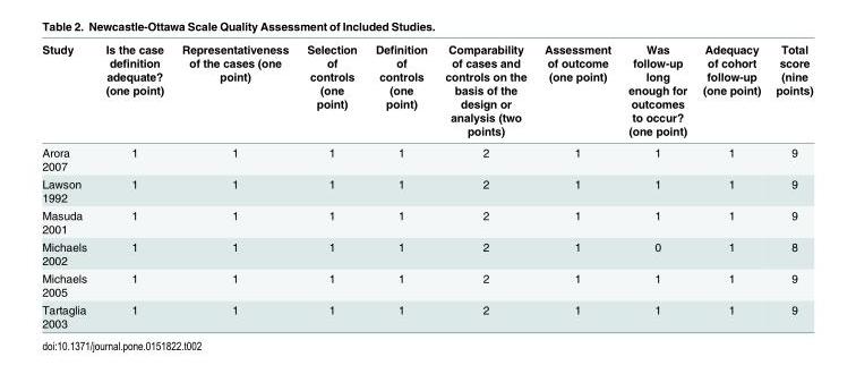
<table><thead><tr><td>Study</td><td>Is the case definition adequate? (one point)</td><td>Representativeness of the cases (one point)</td><td>Selection of controls (one point)</td><td>Definition of controls (one point)</td><td>Comparability of cases and controls on the basis of the design or analysis (two points)</td><td>Assessment of outcome (one point)</td><td>Was follow-up long enough for outcomes to occur? (one point)</td><td>Adequacy of cohort follow-up (one point)</td><td>Total score (nine points)</td></tr></thead><tbody><tr><td>Arora 2007</td><td>1</td><td>1</td><td>1</td><td>1</td><td>2</td><td>1</td><td>1</td><td>1</td><td>9</td></tr><tr><td>Lawson 1992</td><td>1</td><td>1</td><td>1</td><td>1</td><td>2</td><td>1</td><td>1</td><td>1</td><td>9</td></tr><tr><td>Masuda 2001</td><td>1</td><td>1</td><td>1</td><td>1</td><td>2</td><td>1</td><td>1</td><td>1</td><td>9</td></tr><tr><td>Michaels 2002</td><td>1</td><td>1</td><td>1</td><td>1</td><td>2</td><td>1</td><td>0</td><td>1</td><td>8</td></tr><tr><td>Michaels 2005</td><td>1</td><td>1</td><td>1</td><td>1</td><td>2</td><td>1</td><td>1</td><td>1</td><td>9</td></tr><tr><td>Tartaglia 2003</td><td>1</td><td>1</td><td>1</td><td>1</td><td>2</td><td>1</td><td>1</td><td>1</td><td>9</td></tr></tbody></table>